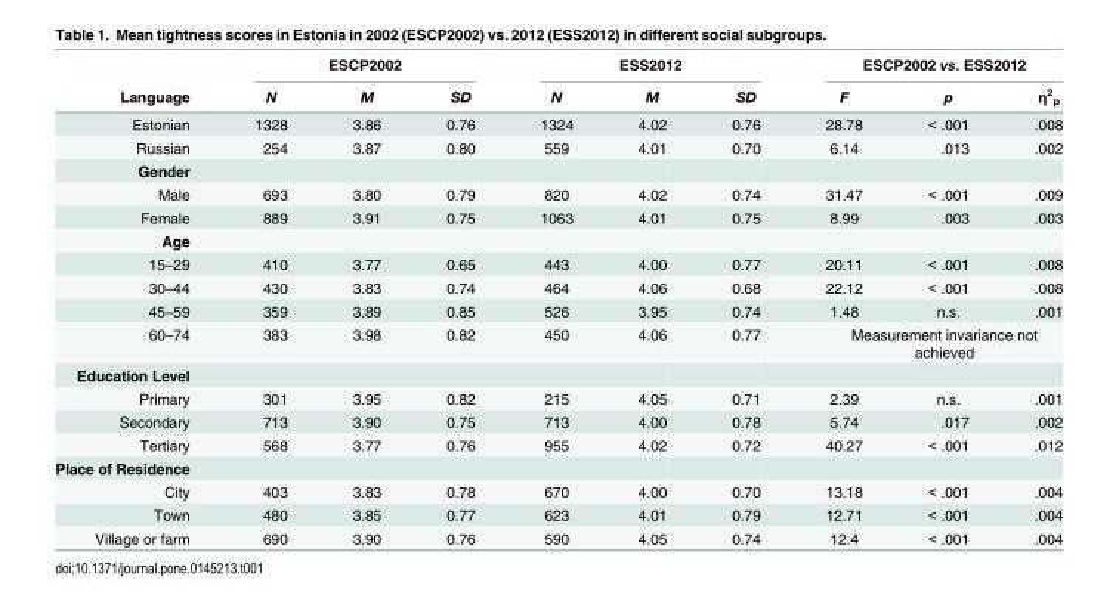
<table><thead><tr><td rowspan="2">Language</td><td colspan="3">ESCP2002</td><td colspan="3">ESS2012</td><td colspan="3">ESCP2002 vs. ESS2012</td></tr><tr><td>N</td><td>M</td><td>SD</td><td>N</td><td>M</td><td>SD</td><td>F</td><td>p</td><td>η<sup>2</sup> <sub>p</sub></td></tr></thead><tbody><tr><td>Estonian</td><td>1328</td><td>3.86</td><td>0.76</td><td>1324</td><td>4.02</td><td>0.76</td><td>28.78</td><td>&lt; .001</td><td>.008</td></tr><tr><td>Russian</td><td>254</td><td>3.87</td><td>0.80</td><td>559</td><td>4.01</td><td>0.70</td><td>6.14</td><td>.013</td><td>.002</td></tr><tr><td colspan="10">Gender</td></tr><tr><td>Male</td><td>693</td><td>3.80</td><td>0.79</td><td>820</td><td>4.02</td><td>0.74</td><td>31.47</td><td>&lt; .001</td><td>.009</td></tr><tr><td>Female</td><td>889</td><td>3.91</td><td>0.75</td><td>1063</td><td>4.01</td><td>0.75</td><td>8.99</td><td>.003</td><td>.003</td></tr><tr><td colspan="10">Age</td></tr><tr><td>15–29</td><td>410</td><td>3.77</td><td>0.65</td><td>443</td><td>4.00</td><td>0.77</td><td>20.11</td><td>&lt; .001</td><td>.008</td></tr><tr><td>30–44</td><td>430</td><td>3.83</td><td>0.74</td><td>464</td><td>4.06</td><td>0.68</td><td>22.12</td><td>&lt; .001</td><td>.008</td></tr><tr><td>45–59</td><td>359</td><td>3.89</td><td>0.85</td><td>526</td><td>3.95</td><td>0.74</td><td>1.48</td><td>n.s.</td><td>.001</td></tr><tr><td>60–74</td><td>383</td><td>3.98</td><td>0.82</td><td>450</td><td>4.06</td><td>0.77</td><td colspan="3">Measurement invariance not achieved</td></tr><tr><td colspan="10">Education Level</td></tr><tr><td>Primary</td><td>301</td><td>3.95</td><td>0.82</td><td>215</td><td>4.05</td><td>0.71</td><td>2.39</td><td>n.s.</td><td>.001</td></tr><tr><td>Secondary</td><td>713</td><td>3.90</td><td>0.75</td><td>713</td><td>4.00</td><td>0.78</td><td>5.74</td><td>.017</td><td>.002</td></tr><tr><td>Tertiary</td><td>568</td><td>3.77</td><td>0.76</td><td>955</td><td>4.02</td><td>0.72</td><td>40.27</td><td>&lt; .001</td><td>.012</td></tr><tr><td colspan="10">Place of Residence</td></tr><tr><td>City</td><td>403</td><td>3.83</td><td>0.78</td><td>670</td><td>4.00</td><td>0.70</td><td>13.18</td><td>&lt; .001</td><td>.004</td></tr><tr><td>Town</td><td>480</td><td>3.85</td><td>0.77</td><td>623</td><td>4.01</td><td>0.79</td><td>12.71</td><td>&lt; .001</td><td>.004</td></tr><tr><td>Village or farm</td><td>690</td><td>3.90</td><td>0.76</td><td>590</td><td>4.05</td><td>0.74</td><td>12.4</td><td>&lt; .001</td><td>.004</td></tr></tbody></table>